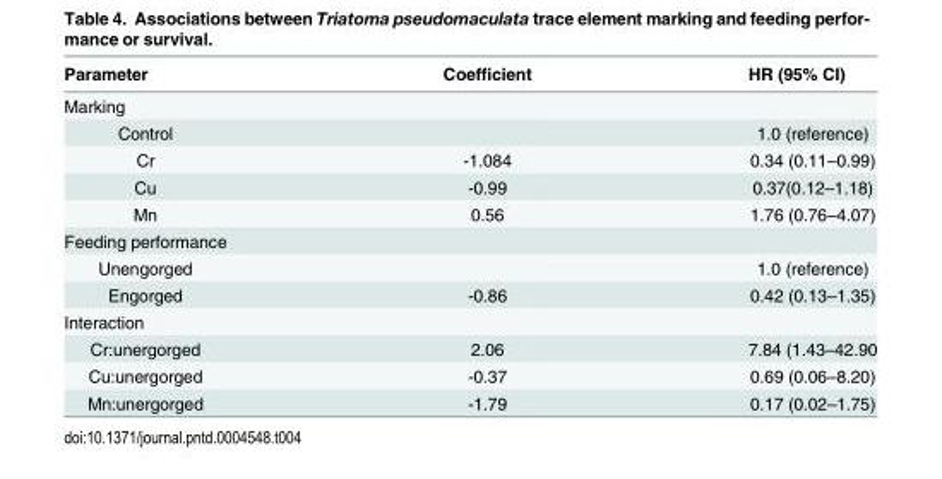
<table><thead><tr><td>Parameter</td><td>Coefficient</td><td>HR (95% CI)</td></tr></thead><tbody><tr><td colspan="3">Marking</td></tr><tr><td>Control</td><td></td><td>1.0 (reference)</td></tr><tr><td>Cr</td><td>-1.084</td><td>0.34 (0.11–0.99)</td></tr><tr><td>Cu</td><td>-0.99</td><td>0.37(0.12–1.18)</td></tr><tr><td>Mn</td><td>0.56</td><td>1.76 (0.76–4.07)</td></tr><tr><td colspan="3">Feeding performance</td></tr><tr><td>Unengorged</td><td></td><td>1.0 (reference)</td></tr><tr><td>Engorged</td><td>-0.86</td><td>0.42 (0.13–1.35)</td></tr><tr><td colspan="3">Interaction</td></tr><tr><td>Cr:unergorged</td><td>2.06</td><td>7.84 (1.43–42.90</td></tr><tr><td>Cu:unergorged</td><td>-0.37</td><td>0.69 (0.06–8.20)</td></tr><tr><td>Mn:unergorged</td><td>-1.79</td><td>0.17 (0.02–1.75)</td></tr></tbody></table>